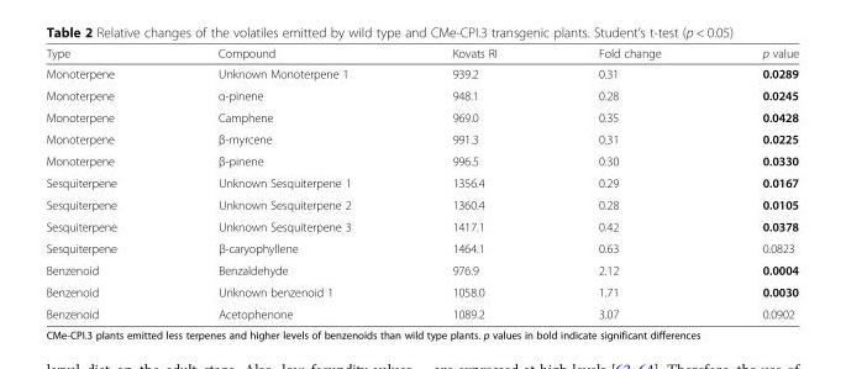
<table><thead><tr><td>Type</td><td>Compound</td><td>Kovats RI</td><td>Fold change</td><td>p value</td></tr></thead><tbody><tr><td>Monoterpene</td><td>Unknown Monoterpene 1</td><td>939.2</td><td>0.31</td><td>0.0289</td></tr><tr><td>Monoterpene</td><td>α-pinene</td><td>948.1</td><td>0.28</td><td>0.0245</td></tr><tr><td>Monoterpene</td><td>Camphene</td><td>969.0</td><td>0.35</td><td>0.0428</td></tr><tr><td>Monoterpene</td><td>β-myrcene</td><td>991.3</td><td>0.31</td><td>0.0225</td></tr><tr><td>Monoterpene</td><td>β-pinene</td><td>996.5</td><td>0.30</td><td>0.0330</td></tr><tr><td>Sesquiterpene</td><td>Unknown Sesquiterpene 1</td><td>1356.4</td><td>0.29</td><td>0.0167</td></tr><tr><td>Sesquiterpene</td><td>Unknown Sesquiterpene 2</td><td>1360.4</td><td>0.28</td><td>0.0105</td></tr><tr><td>Sesquiterpene</td><td>Unknown Sesquiterpene 3</td><td>1417.1</td><td>0.42</td><td>0.0378</td></tr><tr><td>Sesquiterpene</td><td>β-caryophyllene</td><td>1464.1</td><td>0.63</td><td>0.0823</td></tr><tr><td>Benzenoid</td><td>Benzaldehyde</td><td>976.9</td><td>2.12</td><td>0.0004</td></tr><tr><td>Benzenoid</td><td>Unknown benzenoid 1</td><td>1058.0</td><td>1.71</td><td>0.0030</td></tr><tr><td>Benzenoid</td><td>Acetophenone</td><td>1089.2</td><td>3.07</td><td>0.0902</td></tr></tbody></table>